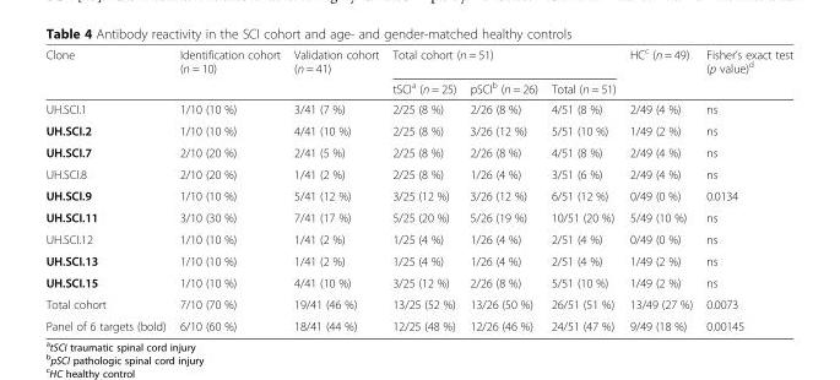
<table><thead><tr><td rowspan="2">Clone</td><td rowspan="2">Identification cohort (n = 10)</td><td rowspan="2">Validation cohort (n = 41)</td><td colspan="3">Total cohort (n = 51)</td><td rowspan="2">HC<sup>c</sup> (n = 49)</td><td rowspan="2">Fisher’s exact test (p value)<sup>d</sup></td></tr><tr><td>tSCI<sup>a</sup> (n = 25)</td><td>pSCI<sup>b</sup> (n = 26)</td><td>Total (n = 51)</td></tr></thead><tbody><tr><td>UH.SCI.1</td><td>1/10 (10 %)</td><td>3/41 (7 %)</td><td>2/25 (8 %)</td><td>2/26 (8 %)</td><td>4/51 (8 %)</td><td>2/49 (4 %)</td><td>ns</td></tr><tr><td>UH.SCI.2</td><td>1/10 (10 %)</td><td>4/41 (10 %)</td><td>2/25 (8 %)</td><td>3/26 (12 %)</td><td>5/51 (10 %)</td><td>1/49 (2 %)</td><td>ns</td></tr><tr><td>UH.SCI.7</td><td>2/10 (20 %)</td><td>2/41 (5 %)</td><td>2/25 (8 %)</td><td>2/26 (8 %)</td><td>4/51 (8 %)</td><td>2/49 (4 %)</td><td>ns</td></tr><tr><td>UH.SCI.8</td><td>2/10 (20 %)</td><td>1/41 (2 %)</td><td>2/25 (8 %)</td><td>1/26 (4 %)</td><td>3/51 (6 %)</td><td>2/49 (4 %)</td><td>ns</td></tr><tr><td>UH.SCI.9</td><td>1/10 (10 %)</td><td>5/41 (12 %)</td><td>3/25 (12 %)</td><td>3/26 (12 %)</td><td>6/51 (12 %)</td><td>0/49 (0 %)</td><td>0.0134</td></tr><tr><td>UH.SCI.11</td><td>3/10 (30 %)</td><td>7/41 (17 %)</td><td>5/25 (20 %)</td><td>5/26 (19 %)</td><td>10/51 (20 %)</td><td>5/49 (10 %)</td><td>ns</td></tr><tr><td>UH.SCI.12</td><td>1/10 (10 %)</td><td>1/41 (2 %)</td><td>1/25 (4 %)</td><td>1/26 (4 %)</td><td>2/51 (4 %)</td><td>0/49 (0 %)</td><td>ns</td></tr><tr><td>UH.SCI.13</td><td>1/10 (10 %)</td><td>1/41 (2 %)</td><td>1/25 (4 %)</td><td>1/26 (4 %)</td><td>2/51 (4 %)</td><td>1/49 (2 %)</td><td>ns</td></tr><tr><td>UH.SCI.15</td><td>1/10 (10 %)</td><td>4/41 (10 %)</td><td>3/25 (12 %)</td><td>2/26 (8 %)</td><td>5/51 (10 %)</td><td>1/49 (2 %)</td><td>ns</td></tr><tr><td>Total cohort</td><td>7/10 (70 %)</td><td>19/41 (46 %)</td><td>13/25 (52 %)</td><td>13/26 (50 %)</td><td>26/51 (51 %)</td><td>13/49 (27 %)</td><td>0.0073</td></tr><tr><td>Panel of 6 targets (bold)</td><td>6/10 (60 %)</td><td>18/41 (44 %)</td><td>12/25 (48 %)</td><td>12/26 (46 %)</td><td>24/51 (47 %)</td><td>9/49 (18 %)</td><td>0.00145</td></tr></tbody></table>